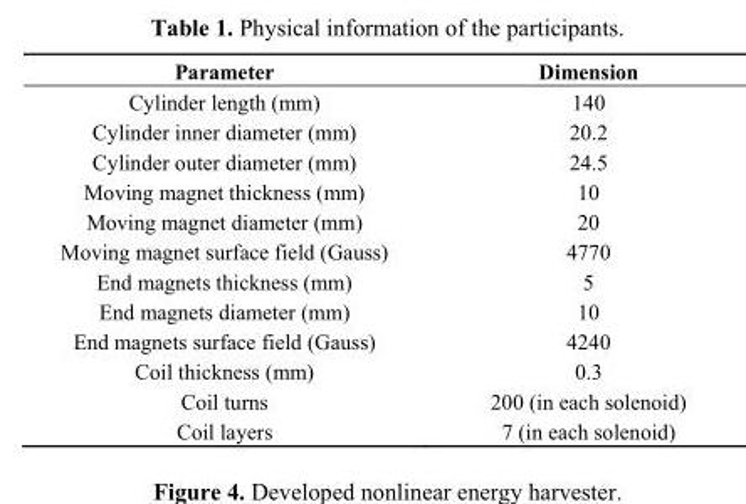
<table><thead><tr><td>Parameter</td><td>Dimension</td></tr></thead><tbody><tr><td>Cylinder length (mm)</td><td>140</td></tr><tr><td>Cylinder inner diameter (mm)</td><td>20.2</td></tr><tr><td>Cylinder outer diameter (mm)</td><td>24.5</td></tr><tr><td>Moving magnet thickness (mm)</td><td>10</td></tr><tr><td>Moving magnet diameter (mm)</td><td>20</td></tr><tr><td>Moving magnet surface field (Gauss)</td><td>4770</td></tr><tr><td>End magnets thickness (mm)</td><td>5</td></tr><tr><td>End magnets diameter (mm)</td><td>10</td></tr><tr><td>End magnets surface field (Gauss)</td><td>4240</td></tr><tr><td>Coil thickness (mm)</td><td>0.3</td></tr><tr><td>Coil turns</td><td>200 (in each solenoid)</td></tr><tr><td>Coil layers</td><td>7 (in each solenoid)</td></tr></tbody></table>